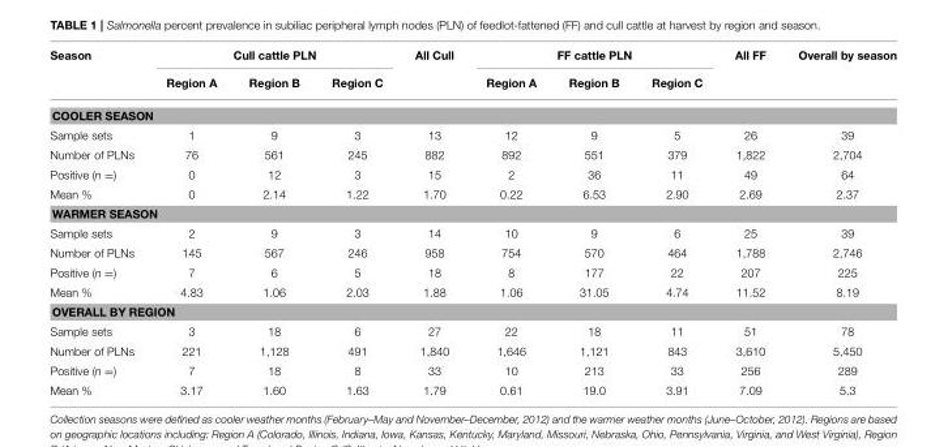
<table><thead><tr><td rowspan="2">Season</td><td colspan="3">Cull cattle PLN</td><td rowspan="2">All Cull</td><td colspan="3">FF cattle PLN</td><td rowspan="2">All FF</td><td rowspan="2">Overall by season</td></tr><tr><td>Region A</td><td>Region B</td><td>Region C</td><td>Region A</td><td>Region B</td><td>Region C</td></tr></thead><tbody><tr><td colspan="10">COOLER SEASON</td></tr><tr><td>Sample sets</td><td>1</td><td>9</td><td>3</td><td>13</td><td>12</td><td>9</td><td>5</td><td>26</td><td>39</td></tr><tr><td>Number of PLNs</td><td>76</td><td>561</td><td>245</td><td>882</td><td>892</td><td>551</td><td>379</td><td>1,822</td><td>2,704</td></tr><tr><td>Positive (n =)</td><td>0</td><td>12</td><td>3</td><td>15</td><td>2</td><td>36</td><td>11</td><td>49</td><td>64</td></tr><tr><td>Mean %</td><td>0</td><td>2.14</td><td>1.22</td><td>1.70</td><td>0.22</td><td>6.53</td><td>2.90</td><td>2.69</td><td>2.37</td></tr><tr><td colspan="10">WARMER SEASON</td></tr><tr><td>Sample sets</td><td>2</td><td>9</td><td>3</td><td>14</td><td>10</td><td>9</td><td>6</td><td>25</td><td>39</td></tr><tr><td>Number of PLNs</td><td>145</td><td>567</td><td>246</td><td>958</td><td>754</td><td>570</td><td>464</td><td>1,788</td><td>2,746</td></tr><tr><td>Positive (n =)</td><td>7</td><td>6</td><td>5</td><td>18</td><td>8</td><td>177</td><td>22</td><td>207</td><td>225</td></tr><tr><td>Mean %</td><td>4.83</td><td>1.06</td><td>2.03</td><td>1.88</td><td>1.06</td><td>31.05</td><td>4.74</td><td>11.52</td><td>8.19</td></tr><tr><td colspan="10">OVERALL BY REGION</td></tr><tr><td>Sample sets</td><td>3</td><td>18</td><td>6</td><td>27</td><td>22</td><td>18</td><td>11</td><td>51</td><td>78</td></tr><tr><td>Number of PLNs</td><td>221</td><td>1,128</td><td>491</td><td>1,840</td><td>1,646</td><td>1,121</td><td>843</td><td>3,610</td><td>5,450</td></tr><tr><td>Positive (n =)</td><td>7</td><td>18</td><td>8</td><td>33</td><td>10</td><td>213</td><td>33</td><td>256</td><td>289</td></tr><tr><td>Mean %</td><td>3.17</td><td>1.60</td><td>1.63</td><td>1.79</td><td>0.61</td><td>19.0</td><td>3.91</td><td>7.09</td><td>5.3</td></tr></tbody></table>